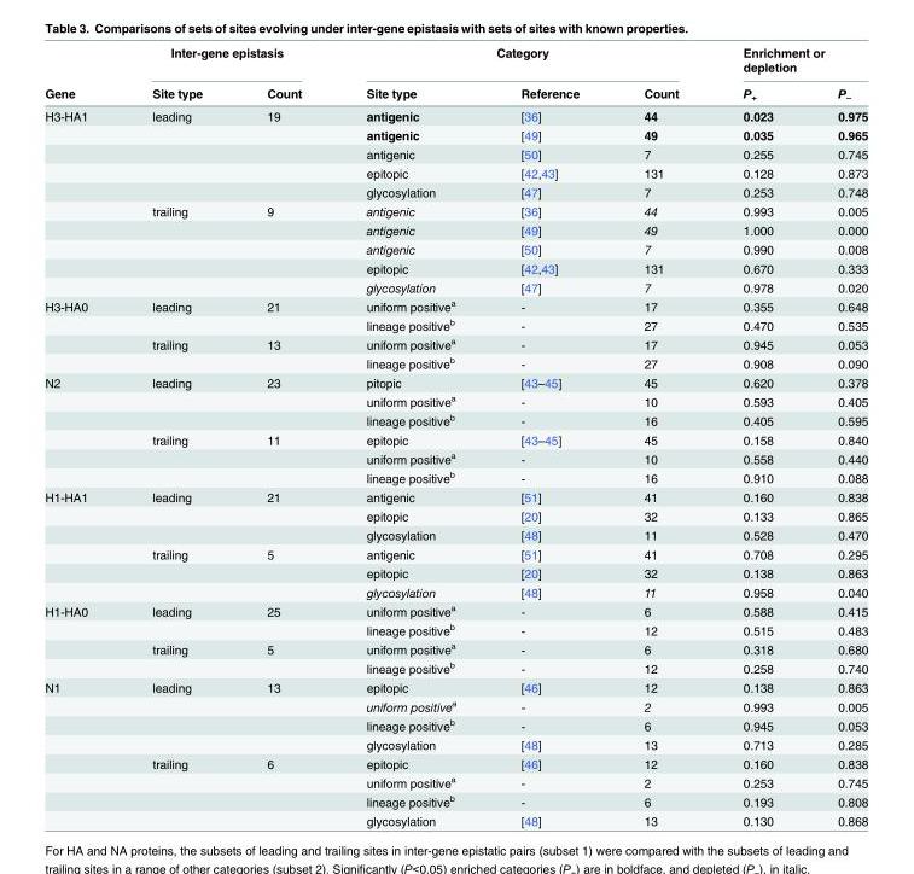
<table><thead><tr><td rowspan="2">Gene</td><td colspan="2">Inter-gene epistasis</td><td colspan="3">Category</td><td colspan="2">Enrichment or depletion</td></tr><tr><td>Site type</td><td>Count</td><td>Site type</td><td>Reference</td><td>Count</td><td>P<sub>+</sub></td><td>P<sub>–</sub></td></tr></thead><tbody><tr><td rowspan="10">H3-HA1</td><td>leading</td><td>19</td><td>antigenic</td><td>[36]</td><td>44</td><td>0.023</td><td>0.975</td></tr><tr><td></td><td></td><td>antigenic</td><td>[49]</td><td>49</td><td>0.035</td><td>0.965</td></tr><tr><td></td><td></td><td>antigenic</td><td>[50]</td><td>7</td><td>0.255</td><td>0.745</td></tr><tr><td></td><td></td><td>epitopic</td><td>[42,43]</td><td>131</td><td>0.128</td><td>0.873</td></tr><tr><td></td><td></td><td>glycosylation</td><td>[47]</td><td>7</td><td>0.253</td><td>0.748</td></tr><tr><td>trailing</td><td>9</td><td>antigenic</td><td>[36]</td><td>44</td><td>0.993</td><td>0.005</td></tr><tr><td></td><td></td><td>antigenic</td><td>[49]</td><td>49</td><td>1.000</td><td>0.000</td></tr><tr><td></td><td></td><td>antigenic</td><td>[50]</td><td>7</td><td>0.990</td><td>0.008</td></tr><tr><td></td><td></td><td>epitopic</td><td>[42,43]</td><td>131</td><td>0.670</td><td>0.333</td></tr><tr><td></td><td></td><td>glycosylation</td><td>[47]</td><td>7</td><td>0.978</td><td>0.020</td></tr><tr><td rowspan="4">H3-HA0</td><td>leading</td><td>21</td><td>uniform positive<sup>a</sup></td><td>-</td><td>17</td><td>0.355</td><td>0.648</td></tr><tr><td></td><td></td><td>lineage positive<sup>b</sup></td><td>-</td><td>27</td><td>0.470</td><td>0.535</td></tr><tr><td>trailing</td><td>13</td><td>uniform positive<sup>a</sup></td><td>-</td><td>17</td><td>0.945</td><td>0.053</td></tr><tr><td></td><td></td><td>lineage positive<sup>b</sup></td><td>-</td><td>27</td><td>0.908</td><td>0.090</td></tr><tr><td rowspan="6">N2</td><td>leading</td><td>23</td><td>pitopic</td><td>[43–45]</td><td>45</td><td>0.620</td><td>0.378</td></tr><tr><td></td><td></td><td>uniform positive<sup>a</sup></td><td>-</td><td>10</td><td>0.593</td><td>0.405</td></tr><tr><td></td><td></td><td>lineage positive<sup>b</sup></td><td>-</td><td>16</td><td>0.405</td><td>0.595</td></tr><tr><td>trailing</td><td>11</td><td>epitopic</td><td>[43–45]</td><td>45</td><td>0.158</td><td>0.840</td></tr><tr><td></td><td></td><td>uniform positive<sup>a</sup></td><td>-</td><td>10</td><td>0.558</td><td>0.440</td></tr><tr><td></td><td></td><td>lineage positive<sup>b</sup></td><td>-</td><td>16</td><td>0.910</td><td>0.088</td></tr><tr><td rowspan="6">H1-HA1</td><td>leading</td><td>21</td><td>antigenic</td><td>[51]</td><td>41</td><td>0.160</td><td>0.838</td></tr><tr><td></td><td></td><td>epitopic</td><td>[20]</td><td>32</td><td>0.133</td><td>0.865</td></tr><tr><td></td><td></td><td>glycosylation</td><td>[48]</td><td>11</td><td>0.528</td><td>0.470</td></tr><tr><td>trailing</td><td>5</td><td>antigenic</td><td>[51]</td><td>41</td><td>0.708</td><td>0.295</td></tr><tr><td></td><td></td><td>epitopic</td><td>[20]</td><td>32</td><td>0.138</td><td>0.863</td></tr><tr><td></td><td></td><td>glycosylation</td><td>[48]</td><td>11</td><td>0.958</td><td>0.040</td></tr><tr><td rowspan="4">H1-HA0</td><td>leading</td><td>25</td><td>uniform positive<sup>a</sup></td><td>-</td><td>6</td><td>0.588</td><td>0.415</td></tr><tr><td></td><td></td><td>lineage positive<sup>b</sup></td><td>-</td><td>12</td><td>0.515</td><td>0.483</td></tr><tr><td>trailing</td><td>5</td><td>uniform positive<sup>a</sup></td><td>-</td><td>6</td><td>0.318</td><td>0.680</td></tr><tr><td></td><td></td><td>lineage positive<sup>b</sup></td><td>-</td><td>12</td><td>0.258</td><td>0.740</td></tr><tr><td rowspan="8">N1</td><td>leading</td><td>13</td><td>epitopic</td><td>[46]</td><td>12</td><td>0.138</td><td>0.863</td></tr><tr><td></td><td></td><td>uniform positive<sup>a</sup></td><td>-</td><td>2</td><td>0.993</td><td>0.005</td></tr><tr><td></td><td></td><td>lineage positive<sup>b</sup></td><td>-</td><td>6</td><td>0.945</td><td>0.053</td></tr><tr><td></td><td></td><td>glycosylation</td><td>[48]</td><td>13</td><td>0.713</td><td>0.285</td></tr><tr><td>trailing</td><td>6</td><td>epitopic</td><td>[46]</td><td>12</td><td>0.160</td><td>0.838</td></tr><tr><td></td><td></td><td>uniform positive<sup>a</sup></td><td>-</td><td>2</td><td>0.253</td><td>0.745</td></tr><tr><td></td><td></td><td>lineage positive<sup>b</sup></td><td>-</td><td>6</td><td>0.193</td><td>0.808</td></tr><tr><td></td><td></td><td>glycosylation</td><td>[48]</td><td>13</td><td>0.130</td><td>0.868</td></tr></tbody></table>